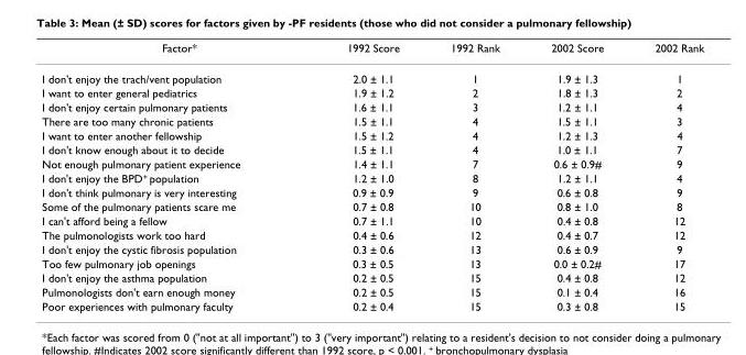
<table><thead><tr><td>Factor*</td><td>1992 Score</td><td>1992 Rank</td><td>2002 Score</td><td>2002 Rank</td></tr></thead><tbody><tr><td>I don&#x27;t enjoy the trach/vent population</td><td>2.0 ± 1.1</td><td>1</td><td>1.9 ± 1.3</td><td>1</td></tr><tr><td>I want to enter general pediatrics</td><td>1.9 ± 1.2</td><td>2</td><td>1.8 ± 1.3</td><td>2</td></tr><tr><td>I don&#x27;t enjoy certain pulmonary patients</td><td>1.6 ± 1.1</td><td>3</td><td>1.2 ± 1.1</td><td>4</td></tr><tr><td>There are too many chronic patients</td><td>1.5 ± 1.1</td><td>4</td><td>1.5 ± 1.1</td><td>3</td></tr><tr><td>I want to enter another fellowship</td><td>1.5 ± 1.2</td><td>4</td><td>1.2 ± 1.3</td><td>4</td></tr><tr><td>I don&#x27;t know enough about it to decide</td><td>1.5 ± 1.1</td><td>4</td><td>1.0 ± 1.1</td><td>7</td></tr><tr><td>Not enough pulmonary patient experience</td><td>1.4 ± 1.1</td><td>7</td><td>0.6 ± 0.9#</td><td>9</td></tr><tr><td>I don&#x27;t enjoy the BPD<sup>+</sup> population</td><td>1.2 ± 1.0</td><td>8</td><td>1.2 ± 1.1</td><td>4</td></tr><tr><td>I don&#x27;t think pulmonary is very interesting</td><td>0.9 ± 0.9</td><td>9</td><td>0.6 ± 0.8</td><td>9</td></tr><tr><td>Some of the pulmonary patients scare me</td><td>0.7 ± 0.8</td><td>10</td><td>0.8 ± 1.0</td><td>8</td></tr><tr><td>I can&#x27;t afford being a fellow</td><td>0.7 ± 1.1</td><td>10</td><td>0.4 ± 0.8</td><td>12</td></tr><tr><td>The pulmonologists work too hard</td><td>0.4 ± 0.6</td><td>12</td><td>0.4 ± 0.7</td><td>12</td></tr><tr><td>I don&#x27;t enjoy the cystic fibrosis population</td><td>0.3 ± 0.6</td><td>13</td><td>0.6 ± 0.9</td><td>9</td></tr><tr><td>Too few pulmonary job openings</td><td>0.3 ± 0.5</td><td>13</td><td>0.0 ± 0.2#</td><td>17</td></tr><tr><td>I don&#x27;t enjoy the asthma population</td><td>0.2 ± 0.5</td><td>15</td><td>0.4 ± 0.8</td><td>12</td></tr><tr><td>Pulmonologists don&#x27;t earn enough money</td><td>0.2 ± 0.5</td><td>15</td><td>0.1 ± 0.4</td><td>16</td></tr><tr><td>Poor experiences with pulmonary faculty</td><td>0.2 ± 0.4</td><td>15</td><td>0.3 ± 0.8</td><td>15</td></tr></tbody></table>